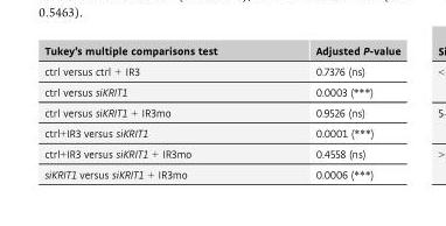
<table><thead><tr><td>Tukey’s multiple comparisons test</td><td>Adjusted P-value</td></tr></thead><tbody><tr><td>ctrl versus ctrl + IR3</td><td>0.7376 (ns)</td></tr><tr><td>ctrl versus siKRIT1</td><td>0.0003 (***)</td></tr><tr><td>ctrl versus siKRIT1 + IR3mo</td><td>0.9526 (ns)</td></tr><tr><td>ctrl+IR3 versus siKRIT1</td><td>0.0001 (***)</td></tr><tr><td>ctrl+IR3 versus siKRIT1 + IR3mo</td><td>0.4558 (ns)</td></tr><tr><td>siKRIT1 versus siKRIT1 + IR3mo</td><td>0.0006 (***)</td></tr></tbody></table>